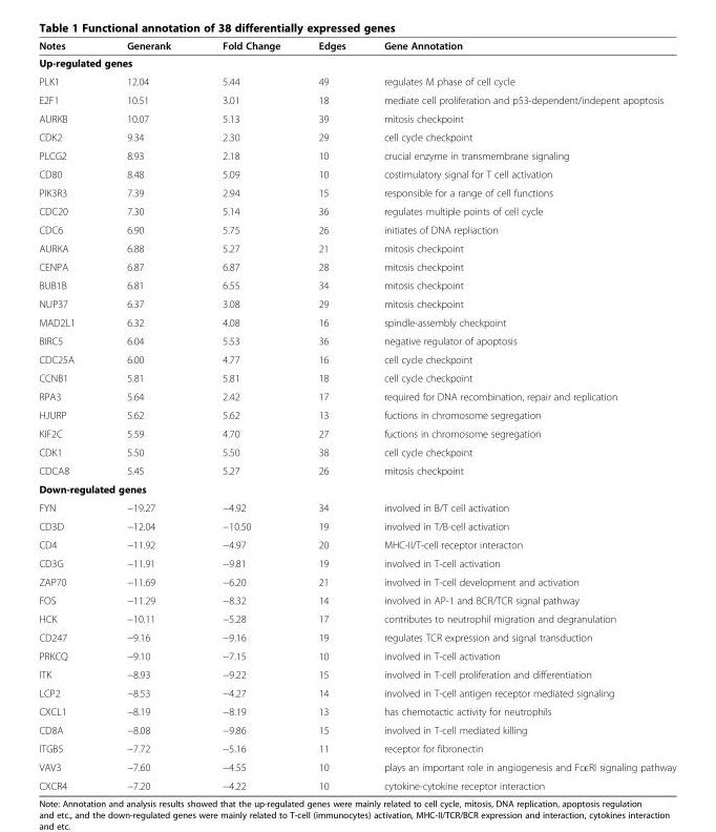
<table><thead><tr><td>Notes</td><td>Generank</td><td>Fold Change</td><td>Edges</td><td>Gene Annotation</td></tr></thead><tbody><tr><td colspan="5">Up-regulated genes</td></tr><tr><td>PLK1</td><td>12.04</td><td>5.44</td><td>49</td><td>regulates M phase of cell cycle</td></tr><tr><td>E2F1</td><td>10.51</td><td>3.01</td><td>18</td><td>mediate cell proliferation and p53-dependent/indepent apoptosis</td></tr><tr><td>AURKB</td><td>10.07</td><td>5.13</td><td>39</td><td>mitosis checkpoint</td></tr><tr><td>CDK2</td><td>9.34</td><td>2.30</td><td>29</td><td>cell cycle checkpoint</td></tr><tr><td>PLCG2</td><td>8.93</td><td>2.18</td><td>10</td><td>crucial enzyme in transmembrane signaling</td></tr><tr><td>CD80</td><td>8.48</td><td>5.09</td><td>10</td><td>costimulatory signal for T cell activation</td></tr><tr><td>PIK3R3</td><td>7.39</td><td>2.94</td><td>15</td><td>responsible for a range of cell functions</td></tr><tr><td>CDC20</td><td>7.30</td><td>5.14</td><td>36</td><td>regulates multiple points of cell cycle</td></tr><tr><td>CDC6</td><td>6.90</td><td>5.75</td><td>26</td><td>initiates of DNA repliaction</td></tr><tr><td>AURKA</td><td>6.88</td><td>5.27</td><td>21</td><td>mitosis checkpoint</td></tr><tr><td>CENPA</td><td>6.87</td><td>6.87</td><td>28</td><td>mitosis checkpoint</td></tr><tr><td>BUB1B</td><td>6.81</td><td>6.55</td><td>34</td><td>mitosis checkpoint</td></tr><tr><td>NUP37</td><td>6.37</td><td>3.08</td><td>29</td><td>mitosis checkpoint</td></tr><tr><td>MAD2L1</td><td>6.32</td><td>4.08</td><td>16</td><td>spindle-assembly checkpoint</td></tr><tr><td>BIRC5</td><td>6.04</td><td>5.53</td><td>36</td><td>negative regulator of apoptosis</td></tr><tr><td>CDC25A</td><td>6.00</td><td>4.77</td><td>16</td><td>cell cycle checkpoint</td></tr><tr><td>CCNB1</td><td>5.81</td><td>5.81</td><td>18</td><td>cell cycle checkpoint</td></tr><tr><td>RPA3</td><td>5.64</td><td>2.42</td><td>17</td><td>required for DNA recombination, repair and replication</td></tr><tr><td>HJURP</td><td>5.62</td><td>5.62</td><td>13</td><td>fuctions in chromosome segregation</td></tr><tr><td>KIF2C</td><td>5.59</td><td>4.70</td><td>27</td><td>fuctions in chromosome segregation</td></tr><tr><td>CDK1</td><td>5.50</td><td>5.50</td><td>38</td><td>cell cycle checkpoint</td></tr><tr><td>CDCA8</td><td>5.45</td><td>5.27</td><td>26</td><td>mitosis checkpoint</td></tr><tr><td colspan="5">Down-regulated genes</td></tr><tr><td>FYN</td><td>−19.27</td><td>−4.92</td><td>34</td><td>involved in B/T cell activation</td></tr><tr><td>CD3D</td><td>−12.04</td><td>−10.50</td><td>19</td><td>involved in T/B-cell activation</td></tr><tr><td>CD4</td><td>−11.92</td><td>−4.97</td><td>20</td><td>MHC-II/T-cell receptor interacton</td></tr><tr><td>CD3G</td><td>−11.91</td><td>−9.81</td><td>19</td><td>involved in T-cell activation</td></tr><tr><td>ZAP70</td><td>−11.69</td><td>−6.20</td><td>21</td><td>involved in T-cell development and activation</td></tr><tr><td>FOS</td><td>−11.29</td><td>−8.32</td><td>14</td><td>involved in AP-1 and BCR/TCR signal pathway</td></tr><tr><td>HCK</td><td>−10.11</td><td>−5.28</td><td>17</td><td>contributes to neutrophil migration and degranulation</td></tr><tr><td>CD247</td><td>−9.16</td><td>−9.16</td><td>19</td><td>regulates TCR expression and signal transduction</td></tr><tr><td>PRKCQ</td><td>−9.10</td><td>−7.15</td><td>10</td><td>involved in T-cell activation</td></tr><tr><td>ITK</td><td>−8.93</td><td>−9.22</td><td>15</td><td>involved in T-cell proliferation and differentiation</td></tr><tr><td>LCP2</td><td>−8.53</td><td>−4.27</td><td>14</td><td>involved in T-cell antigen receptor mediated signaling</td></tr><tr><td>CXCL1</td><td>−8.19</td><td>−8.19</td><td>13</td><td>has chemotactic activity for neutrophils</td></tr><tr><td>CD8A</td><td>−8.08</td><td>−9.86</td><td>15</td><td>involved in T-cell mediated killing</td></tr><tr><td>ITGB5</td><td>−7.72</td><td>−5.16</td><td>11</td><td>receptor for fibronectin</td></tr><tr><td>VAV3</td><td>−7.60</td><td>−4.55</td><td>10</td><td>plays an important role in angiogenesis and FcϵRI signaling pathway</td></tr><tr><td>CXCR4</td><td>−7.20</td><td>−4.22</td><td>10</td><td>cytokine-cytokine receptor interaction</td></tr></tbody></table>